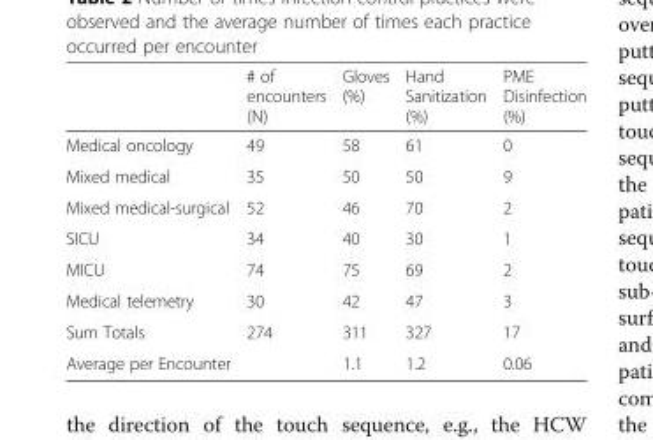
<table><thead><tr><td></td><td># of encounters (N)</td><td>Gloves (%)</td><td>Hand Sanitization (%)</td><td>PME Disinfection (%)</td></tr></thead><tbody><tr><td>Medical oncology</td><td>49</td><td>58</td><td>61</td><td>0</td></tr><tr><td>Mixed medical</td><td>35</td><td>50</td><td>50</td><td>9</td></tr><tr><td>Mixed medical-surgical</td><td>52</td><td>46</td><td>70</td><td>2</td></tr><tr><td>SICU</td><td>34</td><td>40</td><td>30</td><td>1</td></tr><tr><td>MICU</td><td>74</td><td>75</td><td>69</td><td>2</td></tr><tr><td>Medical telemetry</td><td>30</td><td>42</td><td>47</td><td>3</td></tr><tr><td>Sum Totals</td><td>274</td><td>311</td><td>327</td><td>17</td></tr><tr><td>Average per Encounter</td><td></td><td>1.1</td><td>1.2</td><td>0.06</td></tr></tbody></table>